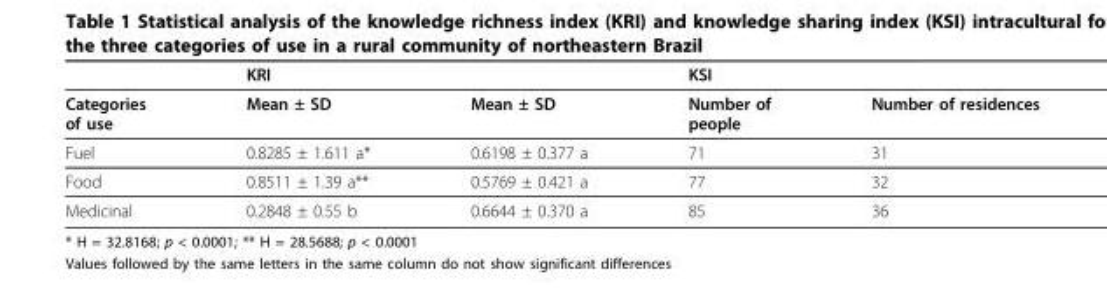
<table><thead><tr><td rowspan="2">Categories of use</td><td colspan="2">KRI</td><td colspan="2">KSI</td></tr><tr><td>Mean ± SD</td><td>Mean ± SD</td><td>Number of people</td><td>Number of residences</td></tr></thead><tbody><tr><td>Fuel</td><td>0.8285 ± 1.611 a*</td><td>0.6198 ± 0.377 a</td><td>71</td><td>31</td></tr><tr><td>Food</td><td>0.8511 ± 1.39 a**</td><td>0.5769 ± 0.421 a</td><td>77</td><td>32</td></tr><tr><td>Medicinal</td><td>0.2848 ± 0.55 b</td><td>0.6644 ± 0.370 a</td><td>85</td><td>36</td></tr></tbody></table>